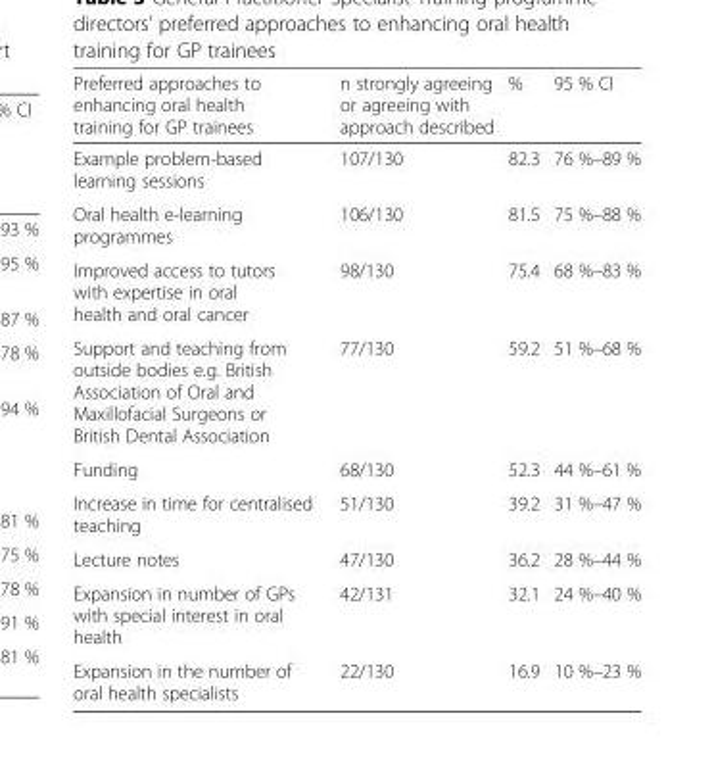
<table><thead><tr><td>Preferred approaches to enhancing oral health training for GP trainees</td><td>n strongly agreeing or agreeing with approach described</td><td>%</td><td>95 % CI</td></tr></thead><tbody><tr><td>Example problem-based learning sessions</td><td>107/130</td><td>82.3</td><td>76 %–89 %</td></tr><tr><td>Oral health e-learning programmes</td><td>106/130</td><td>81.5</td><td>75 %–88 %</td></tr><tr><td>Improved access to tutors with expertise in oral health and oral cancer</td><td>98/130</td><td>75.4</td><td>68 %–83 %</td></tr><tr><td>Support and teaching from outside bodies e.g. British Association of Oral and Maxillofacial Surgeons or British Dental Association</td><td>77/130</td><td>59.2</td><td>51 %–68 %</td></tr><tr><td>Funding</td><td>68/130</td><td>52.3</td><td>44 %–61 %</td></tr><tr><td>Increase in time for centralised teaching</td><td>51/130</td><td>39.2</td><td>31 %–47 %</td></tr><tr><td>Lecture notes</td><td>47/130</td><td>36.2</td><td>28 %–44 %</td></tr><tr><td>Expansion in number of GPs with special interest in oral health</td><td>42/131</td><td>32.1</td><td>24 %–40 %</td></tr><tr><td>Expansion in the number of oral health specialists</td><td>22/130</td><td>16.9</td><td>10 %–23 %</td></tr></tbody></table>